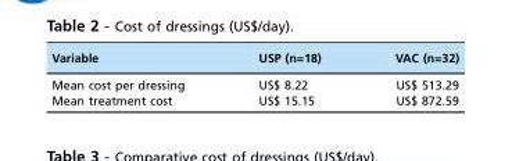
<table><thead><tr><td>Variable</td><td>USP (n=18)</td><td>VAC (n=32)</td></tr></thead><tbody><tr><td>Mean cost per dressing</td><td>US$ 8.22</td><td>US$ 513.29</td></tr><tr><td>Mean treatment cost</td><td>US$ 15.15</td><td>US$ 872.59</td></tr></tbody></table>